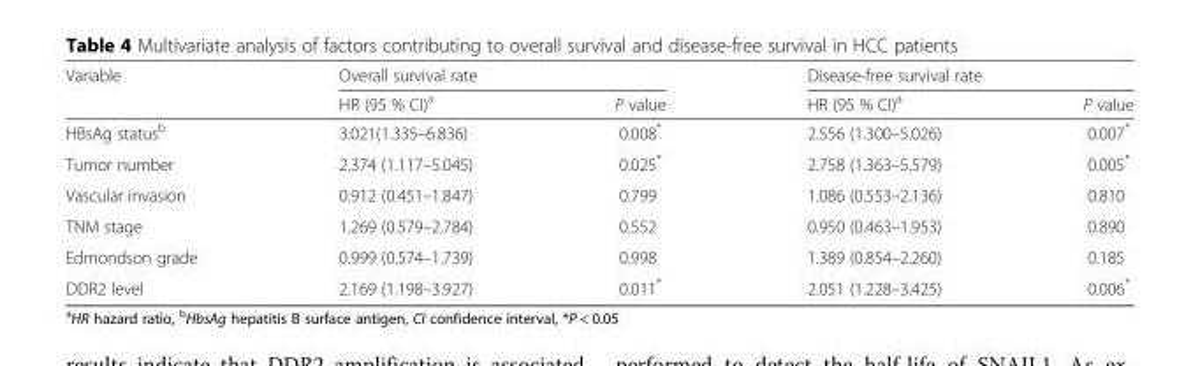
<table><thead><tr><td rowspan="2">Variable</td><td colspan="2">Overall survival rate</td><td colspan="2">Disease-free survival rate</td></tr><tr><td>HR (95 % CI)<sup>a</sup></td><td>P value</td><td>HR (95 % CI)<sup>a</sup></td><td>P value</td></tr></thead><tbody><tr><td>HBsAg status<sup>b</sup></td><td>3.021(1.335–6.836)</td><td>0.008*</td><td>2.556 (1.300–5.026)</td><td>0.007*</td></tr><tr><td>Tumor number</td><td>2.374 (1.117–5.045)</td><td>0.025*</td><td>2.758 (1.363–5.579)</td><td>0.005*</td></tr><tr><td>Vascular invasion</td><td>0.912 (0.451–1.847)</td><td>0.799</td><td>1.086 (0.553–2.136)</td><td>0.810</td></tr><tr><td>TNM stage</td><td>1.269 (0.579–2.784)</td><td>0.552</td><td>0.950 (0.463–1.953)</td><td>0.890</td></tr><tr><td>Edmondson grade</td><td>0.999 (0.574–1.739)</td><td>0.998</td><td>1.389 (0.854–2.260)</td><td>0.185</td></tr><tr><td>DDR2 level</td><td>2.169 (1.198–3.927)</td><td>0.011*</td><td>2.051 (1.228–3.425)</td><td>0.006*</td></tr></tbody></table>